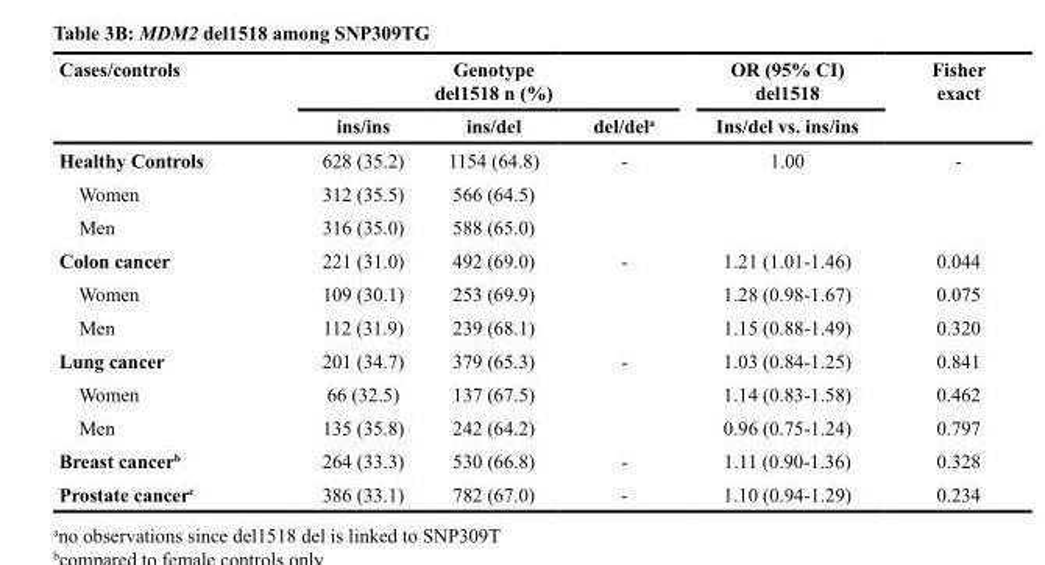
<table><thead><tr><td rowspan="2">Cases/controls</td><td colspan="3">Genotype del1518 n (%)</td><td rowspan="2">OR (95% CI) del1518 Ins/del vs. ins/ins</td><td rowspan="2">Fisher exact</td></tr><tr><td>ins/ins</td><td>ins/del</td><td>del/del<sup>a</sup></td></tr></thead><tbody><tr><td>Healthy Controls</td><td>628 (35.2)</td><td>1154 (64.8)</td><td>-</td><td>1.00</td><td>-</td></tr><tr><td>Women</td><td>312 (35.5)</td><td>566 (64.5)</td><td></td><td></td><td></td></tr><tr><td>Men</td><td>316 (35.0)</td><td>588 (65.0)</td><td></td><td></td><td></td></tr><tr><td>Colon cancer</td><td>221 (31.0)</td><td>492 (69.0)</td><td>-</td><td>1.21 (1.01-1.46)</td><td>0.044</td></tr><tr><td>Women</td><td>109 (30.1)</td><td>253 (69.9)</td><td></td><td>1.28 (0.98-1.67)</td><td>0.075</td></tr><tr><td>Men</td><td>112 (31.9)</td><td>239 (68.1)</td><td></td><td>1.15 (0.88-1.49)</td><td>0.320</td></tr><tr><td>Lung cancer</td><td>201 (34.7)</td><td>379 (65.3)</td><td>-</td><td>1.03 (0.84-1.25)</td><td>0.841</td></tr><tr><td>Women</td><td>66 (32.5)</td><td>137 (67.5)</td><td></td><td>1.14 (0.83-1.58)</td><td>0.462</td></tr><tr><td>Men</td><td>135 (35.8)</td><td>242 (64.2)</td><td></td><td>0.96 (0.75-1.24)</td><td>0.797</td></tr><tr><td>Breast cancer<sup>b</sup></td><td>264 (33.3)</td><td>530 (66.8)</td><td>-</td><td>1.11 (0.90-1.36)</td><td>0.328</td></tr><tr><td>Prostate cancer<sup>c</sup></td><td>386 (33.1)</td><td>782 (67.0)</td><td>-</td><td>1.10 (0.94-1.29)</td><td>0.234</td></tr></tbody></table>